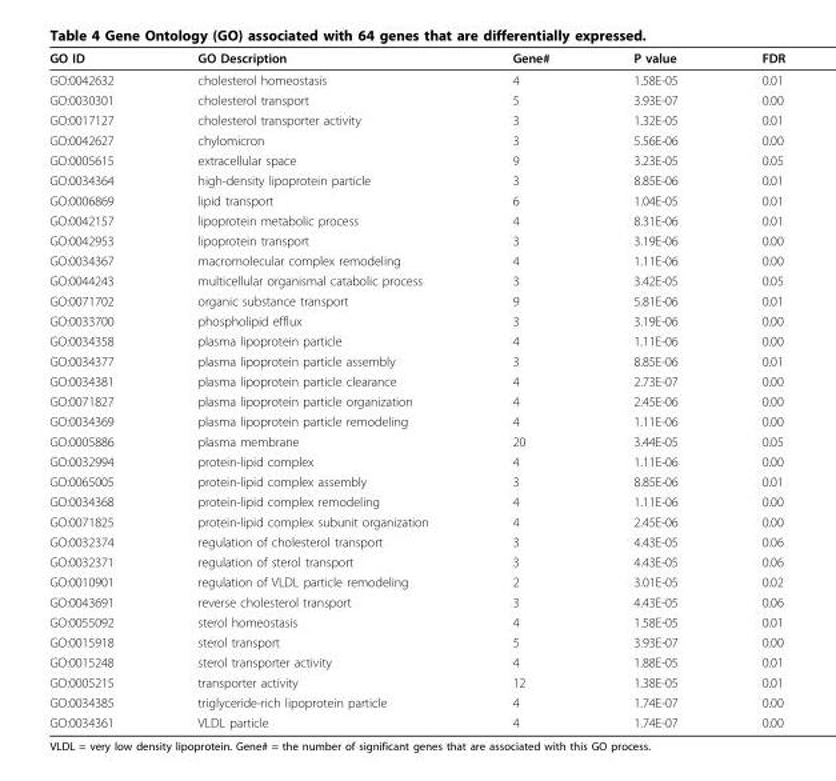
<table><thead><tr><td>GO ID</td><td>GO Description</td><td>Gene#</td><td>P value</td><td>FDR</td></tr></thead><tbody><tr><td>GO:0042632</td><td>cholesterol homeostasis</td><td>4</td><td>1.58E-05</td><td>0.01</td></tr><tr><td>GO:0030301</td><td>cholesterol transport</td><td>5</td><td>3.93E-07</td><td>0.00</td></tr><tr><td>GO:0017127</td><td>cholesterol transporter activity</td><td>3</td><td>1.32E-05</td><td>0.01</td></tr><tr><td>GO:0042627</td><td>chylomicron</td><td>3</td><td>5.56E-06</td><td>0.00</td></tr><tr><td>GO:0005615</td><td>extracellular space</td><td>9</td><td>3.23E-05</td><td>0.05</td></tr><tr><td>GO:0034364</td><td>high-density lipoprotein particle</td><td>3</td><td>8.85E-06</td><td>0.01</td></tr><tr><td>GO:0006869</td><td>lipid transport</td><td>6</td><td>1.04E-05</td><td>0.01</td></tr><tr><td>GO:0042157</td><td>lipoprotein metabolic process</td><td>4</td><td>8.31E-06</td><td>0.01</td></tr><tr><td>GO:0042953</td><td>lipoprotein transport</td><td>3</td><td>3.19E-06</td><td>0.00</td></tr><tr><td>GO:0034367</td><td>macromolecular complex remodeling</td><td>4</td><td>1.11E-06</td><td>0.00</td></tr><tr><td>GO:0044243</td><td>multicellular organismal catabolic process</td><td>3</td><td>3.42E-05</td><td>0.05</td></tr><tr><td>GO:0071702</td><td>organic substance transport</td><td>9</td><td>5.81E-06</td><td>0.01</td></tr><tr><td>GO:0033700</td><td>phospholipid efflux</td><td>3</td><td>3.19E-06</td><td>0.00</td></tr><tr><td>GO:0034358</td><td>plasma lipoprotein particle</td><td>4</td><td>1.11E-06</td><td>0.00</td></tr><tr><td>GO:0034377</td><td>plasma lipoprotein particle assembly</td><td>3</td><td>8.85E-06</td><td>0.01</td></tr><tr><td>GO:0034381</td><td>plasma lipoprotein particle clearance</td><td>4</td><td>2.73E-07</td><td>0.00</td></tr><tr><td>GO:0071827</td><td>plasma lipoprotein particle organization</td><td>4</td><td>2.45E-06</td><td>0.00</td></tr><tr><td>GO:0034369</td><td>plasma lipoprotein particle remodeling</td><td>4</td><td>1.11E-06</td><td>0.00</td></tr><tr><td>GO:0005886</td><td>plasma membrane</td><td>20</td><td>3.44E-05</td><td>0.05</td></tr><tr><td>GO:0032994</td><td>protein-lipid complex</td><td>4</td><td>1.11E-06</td><td>0.00</td></tr><tr><td>GO:0065005</td><td>protein-lipid complex assembly</td><td>3</td><td>8.85E-06</td><td>0.01</td></tr><tr><td>GO:0034368</td><td>protein-lipid complex remodeling</td><td>4</td><td>1.11E-06</td><td>0.00</td></tr><tr><td>GO:0071825</td><td>protein-lipid complex subunit organization</td><td>4</td><td>2.45E-06</td><td>0.00</td></tr><tr><td>GO:0032374</td><td>regulation of cholesterol transport</td><td>3</td><td>4.43E-05</td><td>0.06</td></tr><tr><td>GO:0032371</td><td>regulation of sterol transport</td><td>3</td><td>4.43E-05</td><td>0.06</td></tr><tr><td>GO:0010901</td><td>regulation of VLDL particle remodeling</td><td>2</td><td>3.01E-05</td><td>0.02</td></tr><tr><td>GO:0043691</td><td>reverse cholesterol transport</td><td>3</td><td>4.43E-05</td><td>0.06</td></tr><tr><td>GO:0055092</td><td>sterol homeostasis</td><td>4</td><td>1.58E-05</td><td>0.01</td></tr><tr><td>GO:0015918</td><td>sterol transport</td><td>5</td><td>3.93E-07</td><td>0.00</td></tr><tr><td>GO:0015248</td><td>sterol transporter activity</td><td>4</td><td>1.88E-05</td><td>0.01</td></tr><tr><td>GO:0005215</td><td>transporter activity</td><td>12</td><td>1.38E-05</td><td>0.01</td></tr><tr><td>GO:0034385</td><td>triglyceride-rich lipoprotein particle</td><td>4</td><td>1.74E-07</td><td>0.00</td></tr><tr><td>GO:0034361</td><td>VLDL particle</td><td>4</td><td>1.74E-07</td><td>0.00</td></tr></tbody></table>